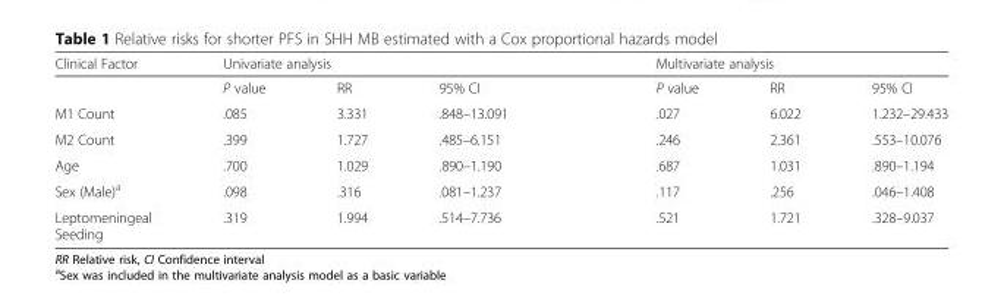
<table><thead><tr><td rowspan="2">Clinical Factor</td><td colspan="3">Univariate analysis</td><td colspan="3">Multivariate analysis</td></tr><tr><td>P value</td><td>RR</td><td>95% CI</td><td>P value</td><td>RR</td><td>95% CI</td></tr></thead><tbody><tr><td>M1 Count</td><td>.085</td><td>3.331</td><td>.848–13.091</td><td>.027</td><td>6.022</td><td>1.232–29.433</td></tr><tr><td>M2 Count</td><td>.399</td><td>1.727</td><td>.485–6.151</td><td>.246</td><td>2.361</td><td>.553–10.076</td></tr><tr><td>Age</td><td>.700</td><td>1.029</td><td>.890–1.190</td><td>.687</td><td>1.031</td><td>.890–1.194</td></tr><tr><td>Sex (Male)<sup>a</sup></td><td>.098</td><td>.316</td><td>.081–1.237</td><td>.117</td><td>.256</td><td>.046–1.408</td></tr><tr><td>Leptomeningeal Seeding</td><td>.319</td><td>1.994</td><td>.514–7.736</td><td>.521</td><td>1.721</td><td>.328–9.037</td></tr></tbody></table>